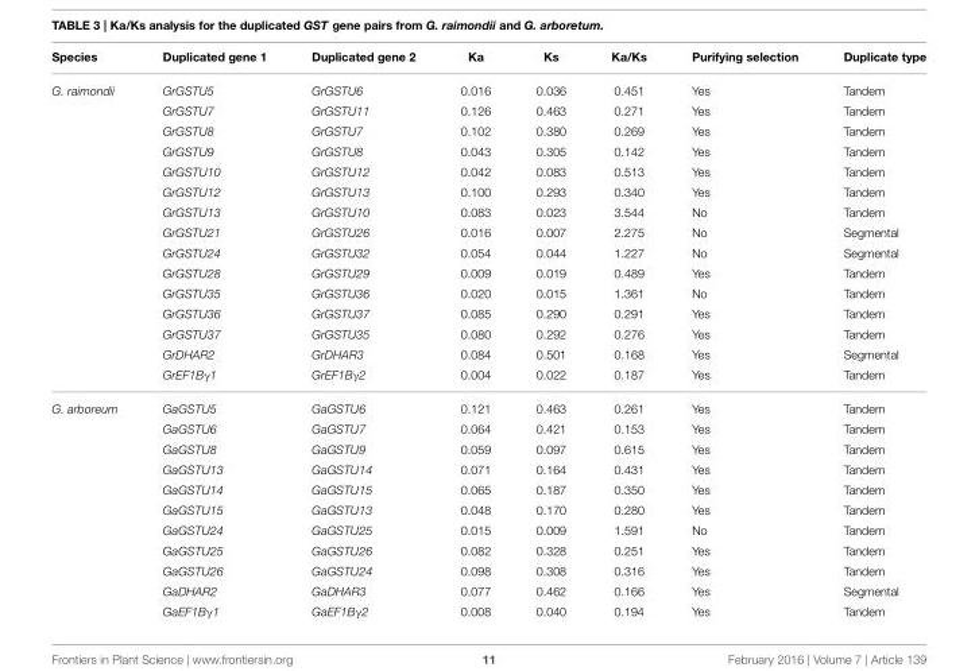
<table><thead><tr><td>Species</td><td>Duplicated gene 1</td><td>Duplicated gene 2</td><td>Ka</td><td>Ks</td><td>Ka/Ks</td><td>Purifying selection</td><td>Duplicate type</td></tr></thead><tbody><tr><td rowspan="15">G. raimondii</td><td>GrGSTU5</td><td>GrGSTU6</td><td>0.016</td><td>0.036</td><td>0.451</td><td>Yes</td><td>Tandem</td></tr><tr><td>GrGSTU7</td><td>GrGSTU11</td><td>0.126</td><td>0.463</td><td>0.271</td><td>Yes</td><td>Tandem</td></tr><tr><td>GrGSTU8</td><td>GrGSTU7</td><td>0.102</td><td>0.380</td><td>0.269</td><td>Yes</td><td>Tandem</td></tr><tr><td>GrGSTU9</td><td>GrGSTU8</td><td>0.043</td><td>0.305</td><td>0.142</td><td>Yes</td><td>Tandem</td></tr><tr><td>GrGSTU10</td><td>GrGSTU12</td><td>0.042</td><td>0.083</td><td>0.513</td><td>Yes</td><td>Tandem</td></tr><tr><td>GrGSTU12</td><td>GrGSTU13</td><td>0.100</td><td>0.293</td><td>0.340</td><td>Yes</td><td>Tandem</td></tr><tr><td>GrGSTU13</td><td>GrGSTU10</td><td>0.083</td><td>0.023</td><td>3.544</td><td>No</td><td>Tandem</td></tr><tr><td>GrGSTU21</td><td>GrGSTU26</td><td>0.016</td><td>0.007</td><td>2.275</td><td>No</td><td>Segmental</td></tr><tr><td>GrGSTU24</td><td>GrGSTU32</td><td>0.054</td><td>0.044</td><td>1.227</td><td>No</td><td>Segmental</td></tr><tr><td>GrGSTU28</td><td>GrGSTU29</td><td>0.009</td><td>0.019</td><td>0.489</td><td>Yes</td><td>Tandem</td></tr><tr><td>GrGSTU35</td><td>GrGSTU36</td><td>0.020</td><td>0.015</td><td>1.361</td><td>No</td><td>Tandem</td></tr><tr><td>GrGSTU36</td><td>GrGSTU37</td><td>0.085</td><td>0.290</td><td>0.291</td><td>Yes</td><td>Tandem</td></tr><tr><td>GrGSTU37</td><td>GrGSTU35</td><td>0.080</td><td>0.292</td><td>0.276</td><td>Yes</td><td>Tandem</td></tr><tr><td>GrDHAR2</td><td>GrDHAR3</td><td>0.084</td><td>0.501</td><td>0.168</td><td>Yes</td><td>Segmental</td></tr><tr><td>GrEF1Bγ1</td><td>GrEF1Bγ2</td><td>0.004</td><td>0.022</td><td>0.187</td><td>Yes</td><td>Tandem</td></tr><tr><td rowspan="11">G. arboreum</td><td>GaGSTU5</td><td>GaGSTU6</td><td>0.121</td><td>0.463</td><td>0.261</td><td>Yes</td><td>Tandem</td></tr><tr><td>GaGSTU6</td><td>GaGSTU7</td><td>0.064</td><td>0.421</td><td>0.153</td><td>Yes</td><td>Tandem</td></tr><tr><td>GaGSTU8</td><td>GaGSTU9</td><td>0.059</td><td>0.097</td><td>0.615</td><td>Yes</td><td>Tandem</td></tr><tr><td>GaGSTU13</td><td>GaGSTU14</td><td>0.071</td><td>0.164</td><td>0.431</td><td>Yes</td><td>Tandem</td></tr><tr><td>GaGSTU14</td><td>GaGSTU15</td><td>0.065</td><td>0.187</td><td>0.350</td><td>Yes</td><td>Tandem</td></tr><tr><td>GaGSTU15</td><td>GaGSTU13</td><td>0.048</td><td>0.170</td><td>0.280</td><td>Yes</td><td>Tandem</td></tr><tr><td>GaGSTU24</td><td>GaGSTU25</td><td>0.015</td><td>0.009</td><td>1.591</td><td>No</td><td>Tandem</td></tr><tr><td>GaGSTU25</td><td>GaGSTU26</td><td>0.082</td><td>0.328</td><td>0.251</td><td>Yes</td><td>Tandem</td></tr><tr><td>GaGSTU26</td><td>GaGSTU24</td><td>0.098</td><td>0.308</td><td>0.316</td><td>Yes</td><td>Tandem</td></tr><tr><td>GaDHAR2</td><td>GaDHAR3</td><td>0.077</td><td>0.462</td><td>0.166</td><td>Yes</td><td>Segmental</td></tr><tr><td>GaEF1Bγ1</td><td>GaEF1Bγ2</td><td>0.008</td><td>0.040</td><td>0.194</td><td>Yes</td><td>Tandem</td></tr></tbody></table>